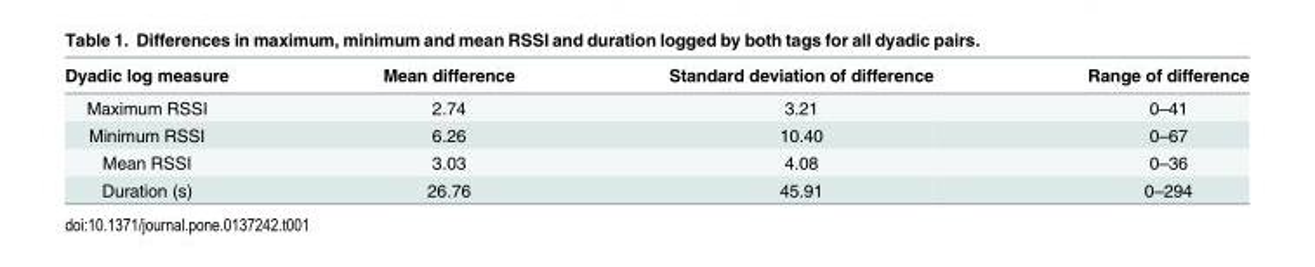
<table><thead><tr><td>Dyadic log measure</td><td>Mean difference</td><td>Standard deviation of difference</td><td>Range of difference</td></tr></thead><tbody><tr><td>Maximum RSSI</td><td>2.74</td><td>3.21</td><td>0–41</td></tr><tr><td>Minimum RSSI</td><td>6.26</td><td>10.40</td><td>0–67</td></tr><tr><td>Mean RSSI</td><td>3.03</td><td>4.08</td><td>0–36</td></tr><tr><td>Duration (s)</td><td>26.76</td><td>45.91</td><td>0–294</td></tr></tbody></table>